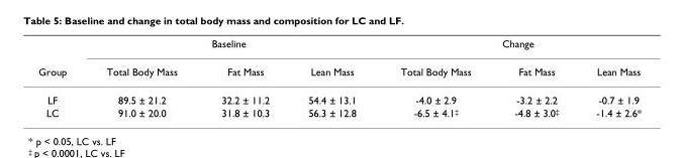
<table><thead><tr><td rowspan="2">Group</td><td colspan="3">Baseline</td><td colspan="3">Change</td></tr><tr><td>Total Body Mass</td><td>Fat Mass</td><td>Lean Mass</td><td>Total Body Mass</td><td>Fat Mass</td><td>Lean Mass</td></tr></thead><tbody><tr><td>LF</td><td>89.5 ± 21.2</td><td>32.2 ± 11.2</td><td>54.4 ± 13.1</td><td>-4.0 ± 2.9</td><td>-3.2 ± 2.2</td><td>-0.7 ± 1.9</td></tr><tr><td>LC</td><td>91.0 ± 20.0</td><td>31.8 ± 10.3</td><td>56.3 ± 12.8</td><td>-6.5 ± 4.1<sup>‡</sup></td><td>-4.8 ± 3.0<sup>‡</sup></td><td>-1.4 ± 2.6*</td></tr></tbody></table>